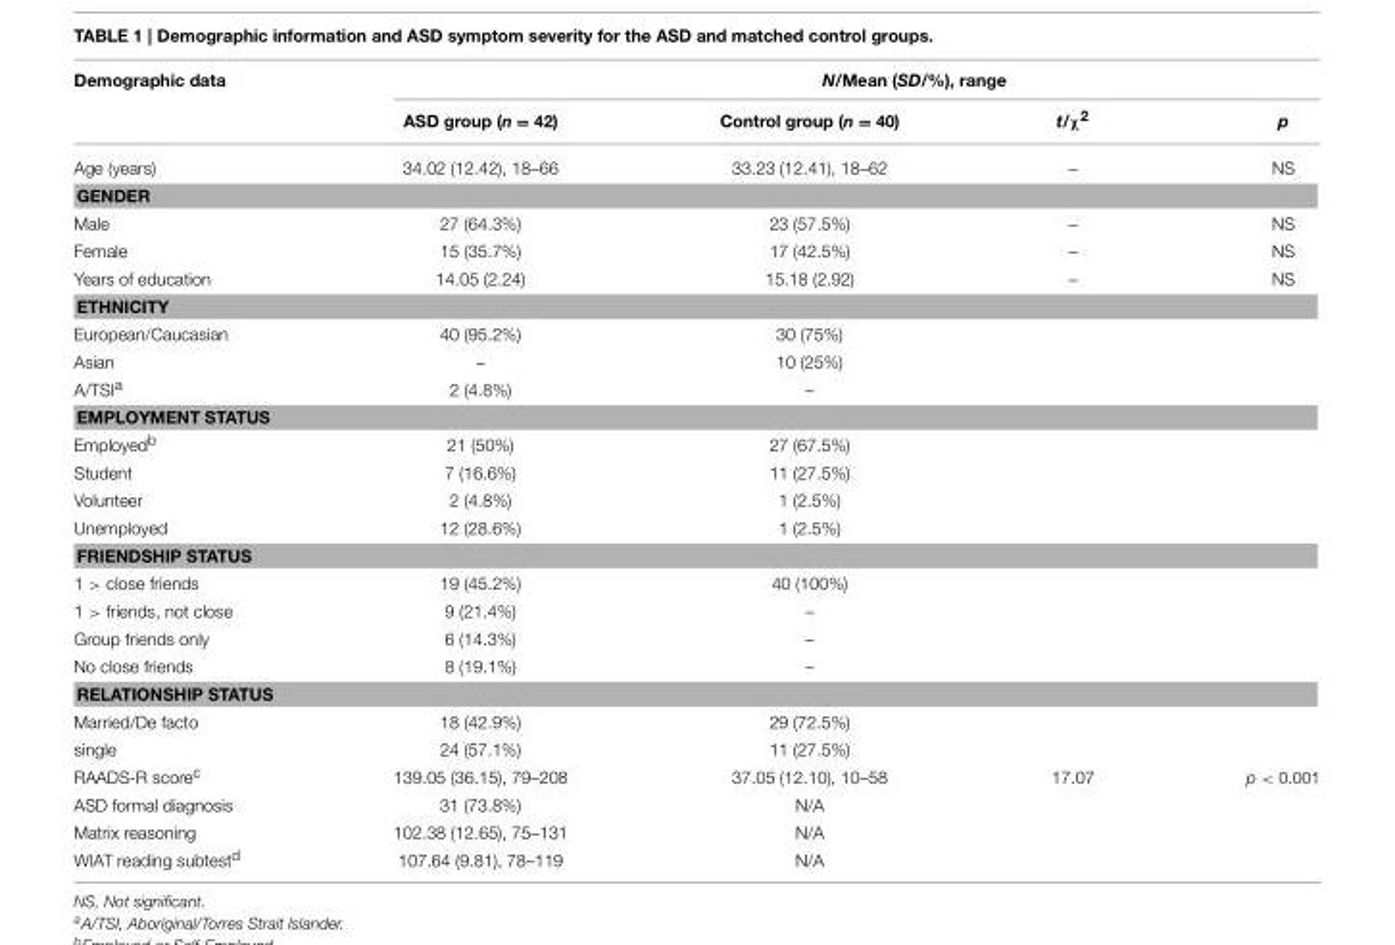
<table><thead><tr><td rowspan="2">Demographic data</td><td colspan="4">N/Mean (SD/%), range</td></tr><tr><td>ASD group (n = 42)</td><td>Control group (n = 40)</td><td>t/χ<sup>2</sup></td><td>p</td></tr></thead><tbody><tr><td>Age (years)</td><td>34.02 (12.42), 18–66</td><td>33.23 (12.41), 18–62</td><td>–</td><td>NS</td></tr><tr><td colspan="5">GENDER</td></tr><tr><td>Male</td><td>27 (64.3%)</td><td>23 (57.5%)</td><td>–</td><td>NS</td></tr><tr><td>Female</td><td>15 (35.7%)</td><td>17 (42.5%)</td><td>–</td><td>NS</td></tr><tr><td>Years of education</td><td>14.05 (2.24)</td><td>15.18 (2.92)</td><td>–</td><td>NS</td></tr><tr><td colspan="5">ETHNICITY</td></tr><tr><td>European/Caucasian</td><td>40 (95.2%)</td><td>30 (75%)</td><td></td><td></td></tr><tr><td>Asian</td><td>–</td><td>10 (25%)</td><td></td><td></td></tr><tr><td>A/TSI<sup>a</sup></td><td>2 (4.8%)</td><td>–</td><td></td><td></td></tr><tr><td colspan="5">EMPLOYMENT STATUS</td></tr><tr><td>Employed<sup>b</sup></td><td>21 (50%)</td><td>27 (67.5%)</td><td></td><td></td></tr><tr><td>Student</td><td>7 (16.6%)</td><td>11 (27.5%)</td><td></td><td></td></tr><tr><td>Volunteer</td><td>2 (4.8%)</td><td>1 (2.5%)</td><td></td><td></td></tr><tr><td>Unemployed</td><td>12 (28.6%)</td><td>1 (2.5%)</td><td></td><td></td></tr><tr><td colspan="5">FRIENDSHIP STATUS</td></tr><tr><td>1 &gt; close friends</td><td>19 (45.2%)</td><td>40 (100%)</td><td></td><td></td></tr><tr><td>1 &gt; friends, not close</td><td>9 (21.4%)</td><td>–</td><td></td><td></td></tr><tr><td>Group friends only</td><td>6 (14.3%)</td><td>–</td><td></td><td></td></tr><tr><td>No close friends</td><td>8 (19.1%)</td><td>–</td><td></td><td></td></tr><tr><td colspan="5">RELATIONSHIP STATUS</td></tr><tr><td>Married/De facto</td><td>18 (42.9%)</td><td>29 (72.5%)</td><td></td><td></td></tr><tr><td>single</td><td>24 (57.1%)</td><td>11 (27.5%)</td><td></td><td></td></tr><tr><td>RAADS-R score<sup>c</sup></td><td>139.05 (36.15), 79–208</td><td>37.05 (12.10), 10–58</td><td>17.07</td><td>p &lt; 0.001</td></tr><tr><td>ASD formal diagnosis</td><td>31 (73.8%)</td><td>N/A</td><td></td><td></td></tr><tr><td>Matrix reasoning</td><td>102.38 (12.65), 75–131</td><td>N/A</td><td></td><td></td></tr><tr><td>WIAT reading subtest<sup>d</sup></td><td>107.64 (9.81), 78–119</td><td>N/A</td><td></td><td></td></tr></tbody></table>